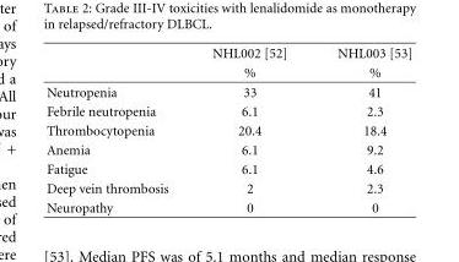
<table><thead><tr><td rowspan="2"></td><td rowspan="2">NHL002 [52] %</td><td rowspan="2">NHL003 [53] %</td></tr><tr></tr></thead><tbody><tr><td>Neutropenia</td><td>33</td><td>41</td></tr><tr><td>Febrile neutropenia</td><td>6.1</td><td>2.3</td></tr><tr><td>Thrombocytopenia</td><td>20.4</td><td>18.4</td></tr><tr><td>Anemia</td><td>6.1</td><td>9.2</td></tr><tr><td>Fatigue</td><td>6.1</td><td>4.6</td></tr><tr><td>Deep vein thrombosis</td><td>2</td><td>2.3</td></tr><tr><td>Neuropathy</td><td>0</td><td>0</td></tr></tbody></table>